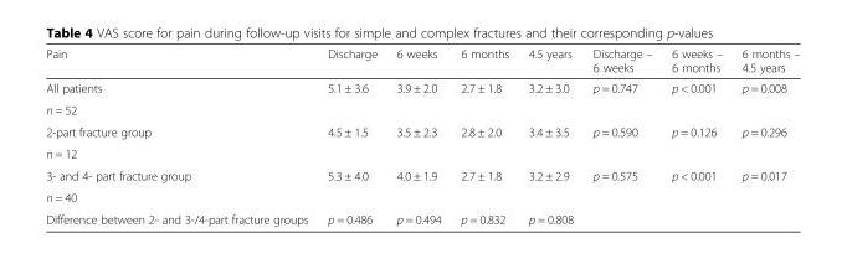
<table><thead><tr><td>Pain</td><td>Discharge</td><td>6 weeks</td><td>6 months</td><td>4.5 years</td><td>Discharge – 6 weeks</td><td>6 weeks – 6 months</td><td>6 months – 4.5 years</td></tr></thead><tbody><tr><td>All patients</td><td rowspan="2">5.1 ± 3.6</td><td rowspan="2">3.9 ± 2.0</td><td rowspan="2">2.7 ± 1.8</td><td rowspan="2">3.2 ± 3.0</td><td rowspan="2">p = 0.747</td><td rowspan="2">p &lt; 0.001</td><td rowspan="2">p = 0.008</td></tr><tr><td>n = 52</td></tr><tr><td>2-part fracture group</td><td rowspan="2">4.5 ± 1.5</td><td rowspan="2">3.5 ± 2.3</td><td rowspan="2">2.8 ± 2.0</td><td rowspan="2">3.4 ± 3.5</td><td rowspan="2">p = 0.590</td><td rowspan="2">p = 0.126</td><td rowspan="2">p = 0.296</td></tr><tr><td>n = 12</td></tr><tr><td>3- and 4- part fracture group</td><td rowspan="2">5.3 ± 4.0</td><td rowspan="2">4.0 ± 1.9</td><td rowspan="2">2.7 ± 1.8</td><td rowspan="2">3.2 ± 2.9</td><td rowspan="2">p = 0.575</td><td rowspan="2">p &lt; 0.001</td><td rowspan="2">p = 0.017</td></tr><tr><td>n = 40</td></tr><tr><td>Difference between 2- and 3-/4-part fracture groups</td><td>p = 0.486</td><td>p = 0.494</td><td>p = 0.832</td><td>p = 0.808</td><td></td><td></td><td></td></tr></tbody></table>